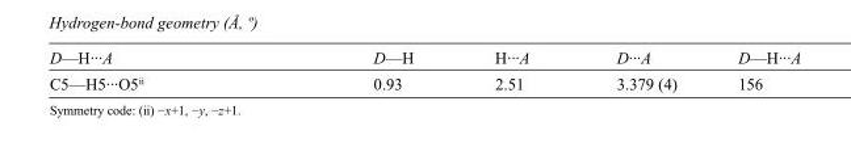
<table><tbody><tr><td>D—H···A</td><td>D—H</td><td>H···A</td><td>D···A</td><td>D—H···A</td></tr><tr><td>C5—H5···O5<sup>ii</sup></td><td>0.93</td><td>2.51</td><td>3.379 (4)</td><td>156</td></tr></tbody></table>